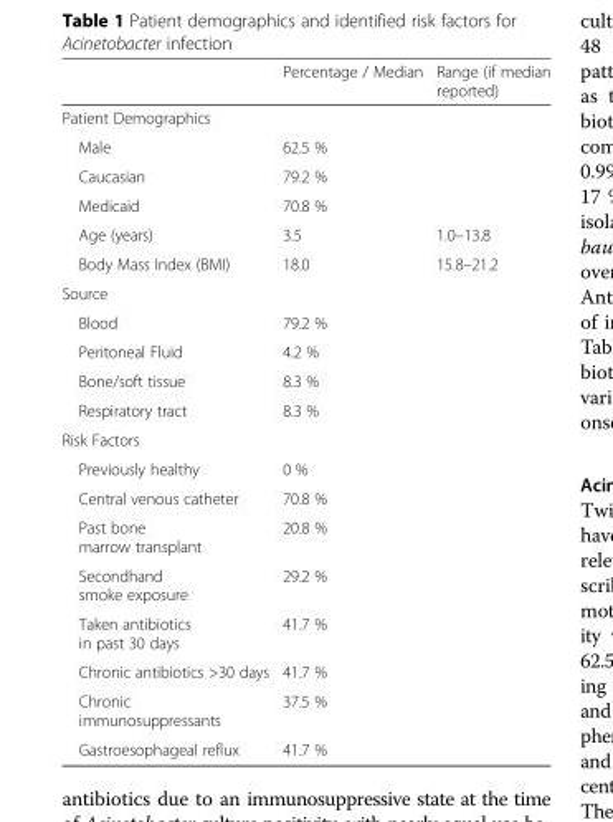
<table><thead><tr><td></td><td>Percentage / Median</td><td>Range (if median reported)</td></tr></thead><tbody><tr><td colspan="3">Patient Demographics</td></tr><tr><td>Male</td><td>62.5 %</td><td></td></tr><tr><td>Caucasian</td><td>79.2 %</td><td></td></tr><tr><td>Medicaid</td><td>70.8 %</td><td></td></tr><tr><td>Age (years)</td><td>3.5</td><td>1.0–13.8</td></tr><tr><td>Body Mass Index (BMI)</td><td>18.0</td><td>15.8–21.2</td></tr><tr><td colspan="3">Source</td></tr><tr><td>Blood</td><td>79.2 %</td><td></td></tr><tr><td>Peritoneal Fluid</td><td>4.2 %</td><td></td></tr><tr><td>Bone/soft tissue</td><td>8.3 %</td><td></td></tr><tr><td>Respiratory tract</td><td>8.3 %</td><td></td></tr><tr><td colspan="3">Risk Factors</td></tr><tr><td>Previously healthy</td><td>0 %</td><td></td></tr><tr><td>Central venous catheter</td><td>70.8 %</td><td></td></tr><tr><td>Past bone marrow transplant</td><td>20.8 %</td><td></td></tr><tr><td>Secondhand smoke exposure</td><td>29.2 %</td><td></td></tr><tr><td>Taken antibiotics in past 30 days</td><td>41.7 %</td><td></td></tr><tr><td>Chronic antibiotics &gt;30 days</td><td>41.7 %</td><td></td></tr><tr><td>Chronic immunosuppressants</td><td>37.5 %</td><td></td></tr><tr><td>Gastroesophageal reflux</td><td>41.7 %</td><td></td></tr></tbody></table>